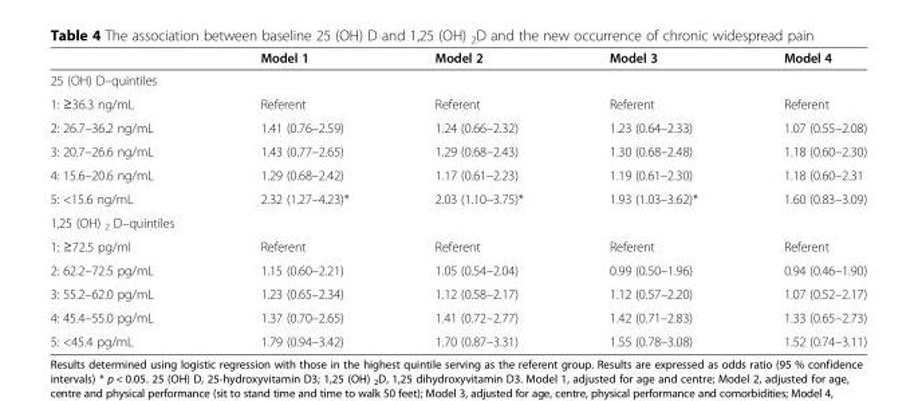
<table><thead><tr><td></td><td>Model 1</td><td>Model 2</td><td>Model 3</td><td>Model 4</td></tr></thead><tbody><tr><td colspan="5">25 (OH) D–quintiles</td></tr><tr><td>1: ≥36.3 ng/mL</td><td>Referent</td><td>Referent</td><td>Referent</td><td>Referent</td></tr><tr><td>2: 26.7–36.2 ng/mL</td><td>1.41 (0.76–2.59)</td><td>1.24 (0.66–2.32)</td><td>1.23 (0.64–2.33)</td><td>1.07 (0.55–2.08)</td></tr><tr><td>3: 20.7–26.6 ng/mL</td><td>1.43 (0.77–2.65)</td><td>1.29 (0.68–2.43)</td><td>1.30 (0.68–2.48)</td><td>1.18 (0.60–2.30)</td></tr><tr><td>4: 15.6–20.6 ng/mL</td><td>1.29 (0.68–2.42)</td><td>1.17 (0.61–2.23)</td><td>1.19 (0.61–2.30)</td><td>1.18 (0.60–2.31</td></tr><tr><td>5: &lt;15.6 ng/mL</td><td>2.32 (1.27–4.23)*</td><td>2.03 (1.10–3.75)*</td><td>1.93 (1.03–3.62)*</td><td>1.60 (0.83–3.09)</td></tr><tr><td colspan="5">1,25 (OH) <sub>2</sub> D–quintiles</td></tr><tr><td>1: ≥72.5 pg/ml</td><td>Referent</td><td>Referent</td><td>Referent</td><td>Referent</td></tr><tr><td>2: 62.2–72.5 pg/mL</td><td>1.15 (0.60–2.21)</td><td>1.05 (0.54–2.04)</td><td>0.99 (0.50–1.96)</td><td>0.94 (0.46–1.90)</td></tr><tr><td>3: 55.2–62.0 pg/mL</td><td>1.23 (0.65–2.34)</td><td>1.12 (0.58–2.17)</td><td>1.12 (0.57–2.20)</td><td>1.07 (0.52–2.17)</td></tr><tr><td>4: 45.4–55.0 pg/mL</td><td>1.37 (0.70–2.65)</td><td>1.41 (0.72–2.77)</td><td>1.42 (0.71–2.83)</td><td>1.33 (0.65–2.73)</td></tr><tr><td>5: &lt;45.4 pg/mL</td><td>1.79 (0.94–3.42)</td><td>1.70 (0.87–3.31)</td><td>1.55 (0.78–3.08)</td><td>1.52 (0.74–3.11)</td></tr></tbody></table>